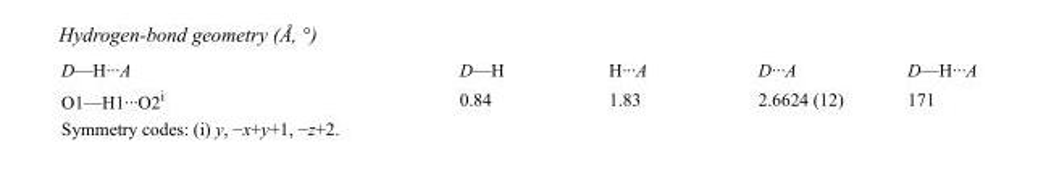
<table><tbody><tr><td>D—H···A</td><td>D—H</td><td>H···A</td><td>D···A</td><td>D—H···A</td></tr><tr><td>O1—H1···O2<sup>i</sup></td><td>0.84</td><td>1.83</td><td>2.6624 (12)</td><td>171</td></tr></tbody></table>